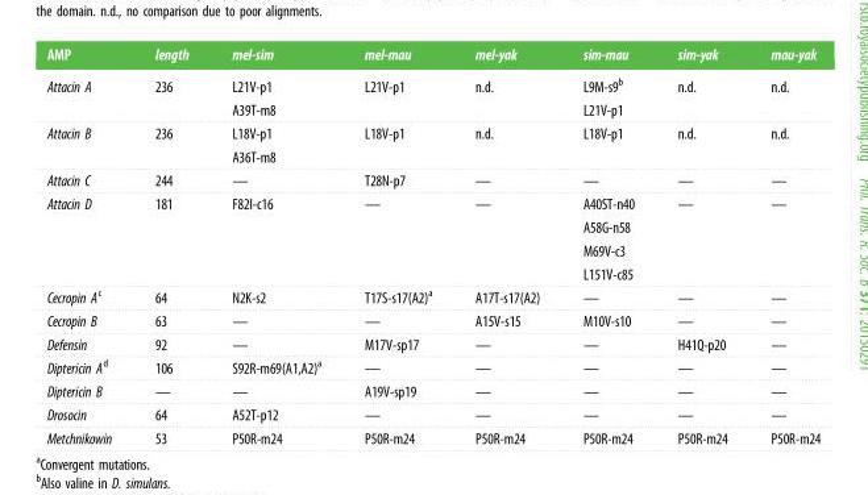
<table><thead><tr><td>AMP</td><td>length</td><td>mel-sim</td><td>mel-mau</td><td>mel-yak</td><td>sim-mau</td><td>sim-yak</td><td>mau-yak</td></tr></thead><tbody><tr><td>Attacin A</td><td>236</td><td>L21V-p1 A39T-m8</td><td>L21V-p1</td><td>n.d.</td><td>L9M-s9<sup>b</sup> L21V-p1</td><td>n.d.</td><td>n.d.</td></tr><tr><td>Attacin B</td><td>236</td><td>L18V-p1 A36T-m8</td><td>L18V-p1</td><td>n.d.</td><td>L18V-p1</td><td>n.d.</td><td>n.d.</td></tr><tr><td>Attacin C</td><td>244</td><td>—</td><td>T28N-p7</td><td>—</td><td>—</td><td>—</td><td>—</td></tr><tr><td>Attacin D</td><td>181</td><td>F82I-c16</td><td>—</td><td>—</td><td>A40ST-n40 A58G-n58 M69V-c3 L151V-c85</td><td>—</td><td>—</td></tr><tr><td>Cecropin A<sup>c</sup></td><td>64</td><td>N2K-s2</td><td>T17S-s17(A2)<sup>a</sup></td><td>A17T-s17(A2)</td><td>—</td><td>—</td><td>—</td></tr><tr><td>Cecropin B</td><td>63</td><td>—</td><td>—</td><td>A15V-s15</td><td>M10V-s10</td><td>—</td><td>—</td></tr><tr><td>Defensin</td><td>92</td><td>—</td><td>M17V-sp17</td><td>—</td><td>—</td><td>H41Q-p20</td><td>—</td></tr><tr><td>Diptericin A<sup>d</sup></td><td>106</td><td>S92R-m69(A1,A2)<sup>a</sup></td><td>—</td><td>—</td><td>—</td><td>—</td><td>—</td></tr><tr><td>Diptericin B</td><td>—</td><td>—</td><td>A19V-sp19</td><td>—</td><td>—</td><td>—</td><td>—</td></tr><tr><td>Drosocin</td><td>64</td><td>A52T-p12</td><td>—</td><td>—</td><td>—</td><td>—</td><td>—</td></tr><tr><td>Metchnikowin</td><td>53</td><td>P50R-m24</td><td>P50R-m24</td><td>P50R-m24</td><td>P50R-m24</td><td>P50R-m24</td><td>P50R-m24</td></tr></tbody></table>